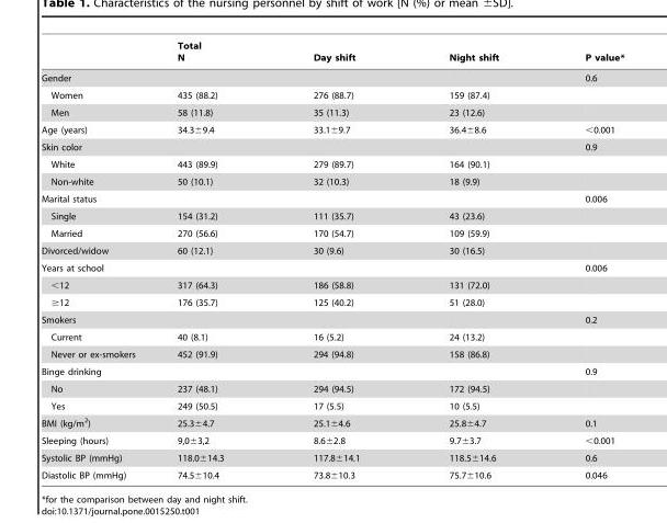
<table><thead><tr><td></td><td>Total N</td><td>Day shift</td><td>Night shift</td><td>P value*</td></tr></thead><tbody><tr><td>Gender</td><td></td><td></td><td></td><td>0.6</td></tr><tr><td>Women</td><td>435 (88.2)</td><td>276 (88.7)</td><td>159 (87.4)</td><td></td></tr><tr><td>Men</td><td>58 (11.8)</td><td>35 (11.3)</td><td>23 (12.6)</td><td></td></tr><tr><td>Age (years)</td><td>34.3±9.4</td><td>33.1±9.7</td><td>36.4±8.6</td><td>&lt;0.001</td></tr><tr><td>Skin color</td><td></td><td></td><td></td><td>0.9</td></tr><tr><td>White</td><td>443 (89.9)</td><td>279 (89.7)</td><td>164 (90.1)</td><td></td></tr><tr><td>Non-white</td><td>50 (10.1)</td><td>32 (10.3)</td><td>18 (9.9)</td><td></td></tr><tr><td>Marital status</td><td></td><td></td><td></td><td>0.006</td></tr><tr><td>Single</td><td>154 (31.2)</td><td>111 (35.7)</td><td>43 (23.6)</td><td></td></tr><tr><td>Married</td><td>270 (56.6)</td><td>170 (54.7)</td><td>109 (59.9)</td><td></td></tr><tr><td>Divorced/widow</td><td>60 (12.1)</td><td>30 (9.6)</td><td>30 (16.5)</td><td></td></tr><tr><td>Years at school</td><td></td><td></td><td></td><td>0.006</td></tr><tr><td>&lt;12</td><td>317 (64.3)</td><td>186 (58.8)</td><td>131 (72.0)</td><td></td></tr><tr><td>≥12</td><td>176 (35.7)</td><td>125 (40.2)</td><td>51 (28.0)</td><td></td></tr><tr><td>Smokers</td><td></td><td></td><td></td><td>0.2</td></tr><tr><td>Current</td><td>40 (8.1)</td><td>16 (5.2)</td><td>24 (13.2)</td><td></td></tr><tr><td>Never or ex-smokers</td><td>452 (91.9)</td><td>294 (94.8)</td><td>158 (86.8)</td><td></td></tr><tr><td>Binge drinking</td><td></td><td></td><td></td><td>0.9</td></tr><tr><td>No</td><td>237 (48.1)</td><td>294 (94.5)</td><td>172 (94.5)</td><td></td></tr><tr><td>Yes</td><td>249 (50.5)</td><td>17 (5.5)</td><td>10 (5.5)</td><td></td></tr><tr><td>BMI (kg/m<sup>2</sup>)</td><td>25.3±4.7</td><td>25.1±4.6</td><td>25.8±4.7</td><td>0.1</td></tr><tr><td>Sleeping (hours)</td><td>9,0±3,2</td><td>8.6±2.8</td><td>9.7±3.7</td><td>&lt;0.001</td></tr><tr><td>Systolic BP (mmHg)</td><td>118.0±14.3</td><td>117.8±14.1</td><td>118.5±14.6</td><td>0.6</td></tr><tr><td>Diastolic BP (mmHg)</td><td>74.5±10.4</td><td>73.8±10.3</td><td>75.7±10.6</td><td>0.046</td></tr></tbody></table>